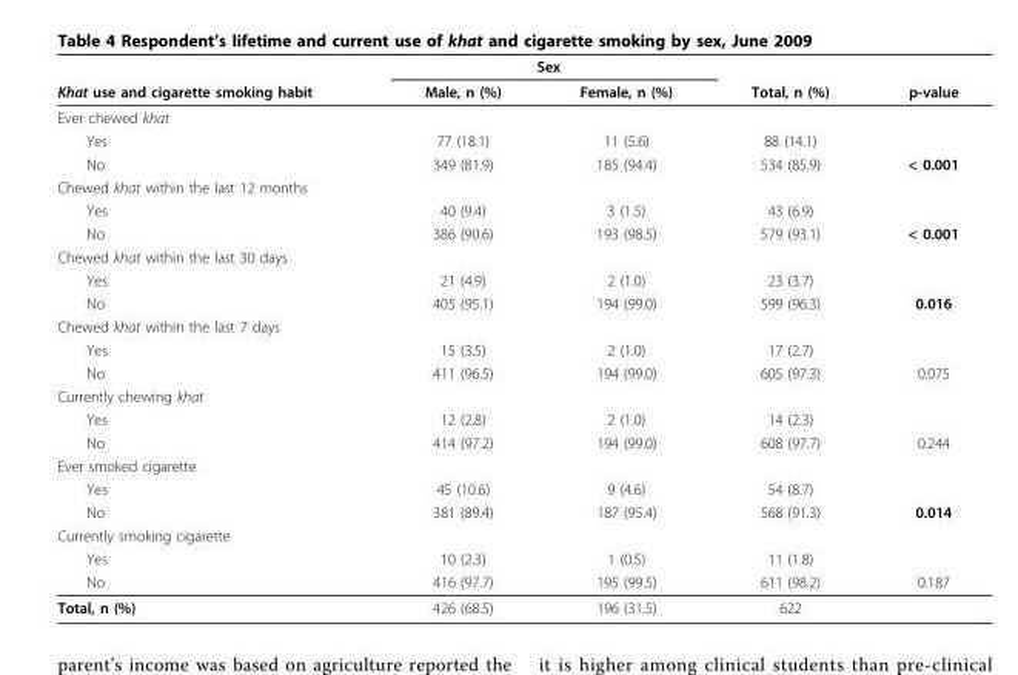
<table><thead><tr><td rowspan="2">Khat use and cigarette smoking habit</td><td colspan="2">Sex</td><td rowspan="2">Total, n (%)</td><td rowspan="2">p-value</td></tr><tr><td>Male, n (%)</td><td>Female, n (%)</td></tr></thead><tbody><tr><td colspan="5">Ever chewed khat</td></tr><tr><td>Yes</td><td>77 (18.1)</td><td>11 (5.6)</td><td>88 (14.1)</td><td></td></tr><tr><td>No</td><td>349 (81.9)</td><td>185 (94.4)</td><td>534 (85.9)</td><td>&lt; 0.001</td></tr><tr><td colspan="5">Chewed khat within the last 12 months</td></tr><tr><td>Yes</td><td>40 (9.4)</td><td>3 (1.5)</td><td>43 (6.9)</td><td></td></tr><tr><td>No</td><td>386 (90.6)</td><td>193 (98.5)</td><td>579 (93.1)</td><td>&lt; 0.001</td></tr><tr><td colspan="5">Chewed khat within the last 30 days</td></tr><tr><td>Yes</td><td>21 (4.9)</td><td>2 (1.0)</td><td>23 (3.7)</td><td></td></tr><tr><td>No</td><td>405 (95.1)</td><td>194 (99.0)</td><td>599 (96.3)</td><td>0.016</td></tr><tr><td colspan="5">Chewed khat within the last 7 days</td></tr><tr><td>Yes</td><td>15 (3.5)</td><td>2 (1.0)</td><td>17 (2.7)</td><td></td></tr><tr><td>No</td><td>411 (96.5)</td><td>194 (99.0)</td><td>605 (97.3)</td><td>0.075</td></tr><tr><td colspan="5">Currently chewing khat</td></tr><tr><td>Yes</td><td>12 (2.8)</td><td>2 (1.0)</td><td>14 (2.3)</td><td></td></tr><tr><td>No</td><td>414 (97.2)</td><td>194 (99.0)</td><td>608 (97.7)</td><td>0.244</td></tr><tr><td colspan="5">Ever smoked cigarette</td></tr><tr><td>Yes</td><td>45 (10.6)</td><td>9 (4.6)</td><td>54 (8.7)</td><td></td></tr><tr><td>No</td><td>381 (89.4)</td><td>187 (95.4)</td><td>568 (91.3)</td><td>0.014</td></tr><tr><td colspan="5">Currently smoking cigarette</td></tr><tr><td>Yes</td><td>10 (2.3)</td><td>1 (0.5)</td><td>11 (1.8)</td><td></td></tr><tr><td>No</td><td>416 (97.7)</td><td>195 (99.5)</td><td>611 (98.2)</td><td>0.187</td></tr><tr><td>Total, n (%)</td><td>426 (68.5)</td><td>196 (31.5)</td><td>622</td><td></td></tr></tbody></table>